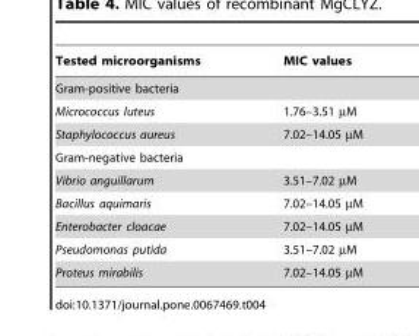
<table><thead><tr><td>Tested microorganisms</td><td>MIC values</td></tr></thead><tbody><tr><td colspan="2">Gram-positive bacteria</td></tr><tr><td>Micrococcus luteus</td><td>1.76–3.51 µM</td></tr><tr><td>Staphylococcus aureus</td><td>7.02–14.05 µM</td></tr><tr><td colspan="2">Gram-negative bacteria</td></tr><tr><td>Vibrio anguillarum</td><td>3.51–7.02 µM</td></tr><tr><td>Bacillus aquimaris</td><td>7.02–14.05 µM</td></tr><tr><td>Enterobacter cloacae</td><td>7.02–14.05 µM</td></tr><tr><td>Pseudomonas putida</td><td>3.51–7.02 µM</td></tr><tr><td>Proteus mirabilis</td><td>7.02–14.05 µM</td></tr></tbody></table>